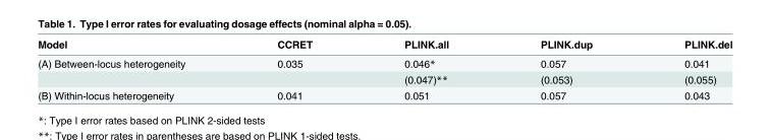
<table><thead><tr><td>Model</td><td>CCRET</td><td>PLINK.all</td><td>PLINK.dup</td><td>PLINK.del</td></tr></thead><tbody><tr><td rowspan="2">(A) Between-locus heterogeneity</td><td>0.035</td><td>0.046*</td><td>0.057</td><td>0.041</td></tr><tr><td></td><td>(0.047)**</td><td>(0.053)</td><td>(0.055)</td></tr><tr><td>(B) Within-locus heterogeneity</td><td>0.041</td><td>0.051</td><td>0.057</td><td>0.043</td></tr></tbody></table>